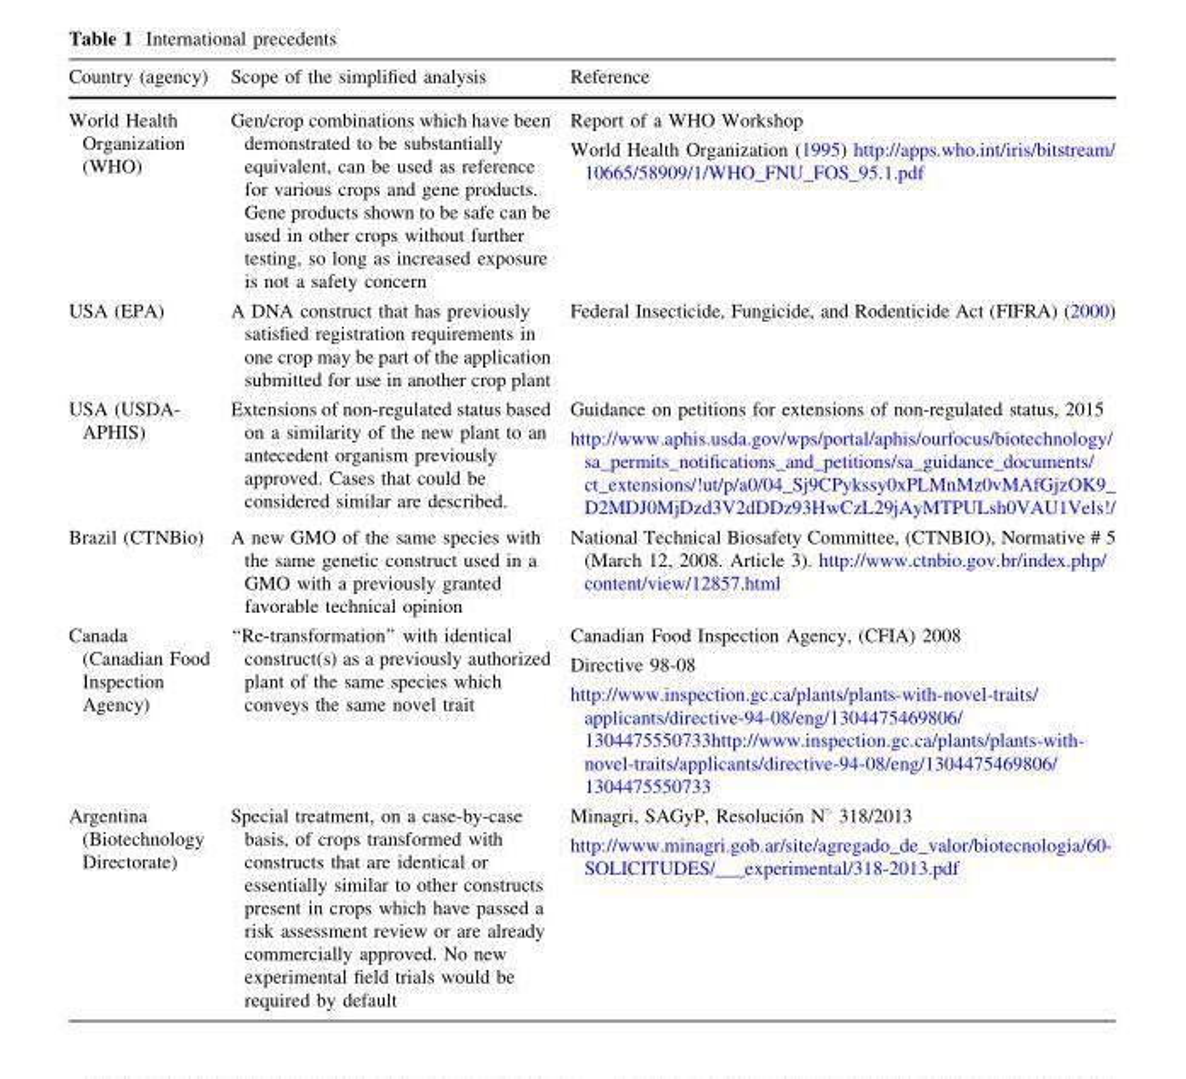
<table><thead><tr><td>Country (agency)</td><td>Scope of the simplified analysis</td><td>Reference</td></tr></thead><tbody><tr><td>World Health Organization (WHO)</td><td>Gen/crop combinations which have been demonstrated to be substantially equivalent, can be used as reference for various crops and gene products. Gene products shown to be safe can be used in other crops without further testing, so long as increased exposure is not a safety concern</td><td>Report of a WHO Workshop World Health Organization (1995) http://apps.who.int/iris/bitstream/ 10665/58909/1/WHO_FNU_FOS_95.1.pdf</td></tr><tr><td>USA (EPA)</td><td>A DNA construct that has previously satisfied registration requirements in one crop may be part of the application submitted for use in another crop plant</td><td>Federal Insecticide, Fungicide, and Rodenticide Act (FIFRA) (2000)</td></tr><tr><td>USA (USDA- APHIS)</td><td>Extensions of non-regulated status based on a similarity of the new plant to an antecedent organism previously approved. Cases that could be considered similar are described.</td><td>Guidance on petitions for extensions of non-regulated status, 2015 http://www.aphis.usda.gov/wps/portal/aphis/ourfocus/biotechnology/ sa_permits_notifications_and_petitions/sa_guidance_documents/ ct_extensions/!ut/p/a0/04_Sj9CPykssy0xPLMnMz0vMAfGjzOK9_ D2MDJ0MjDzd3V2dDDz93HwCzL29jAyMTPULsh0VAU1Vels!/</td></tr><tr><td>Brazil (CTNBio)</td><td>A new GMO of the same species with the same genetic construct used in a GMO with a previously granted favorable technical opinion</td><td>National Technical Biosafety Committee, (CTNBIO), Normative # 5 (March 12, 2008. Article 3). http://www.ctnbio.gov.br/index.php/ content/view/12857.html</td></tr><tr><td>Canada (Canadian Food Inspection Agency)</td><td>‘‘Re-transformation’’ with identical construct(s) as a previously authorized plant of the same species which conveys the same novel trait</td><td>Canadian Food Inspection Agency, (CFIA) 2008 Directive 98-08 http://www.inspection.gc.ca/plants/plants-with-novel-traits/ applicants/directive-94-08/eng/1304475469806/ 1304475550733http://www.inspection.gc.ca/plants/plants-with- novel-traits/applicants/directive-94-08/eng/1304475469806/ 1304475550733</td></tr><tr><td>Argentina (Biotechnology Directorate)</td><td>Special treatment, on a case-by-case basis, of crops transformed with constructs that are identical or essentially similar to other constructs present in crops which have passed a risk assessment review or are already commercially approved. No new experimental field trials would be required by default</td><td>Minagri, SAGyP, Resolucio´n N8 318/2013 http://www.minagri.gob.ar/site/agregado_de_valor/biotecnologia/60- SOLICITUDES/___experimental/318-2013.pdf</td></tr></tbody></table>